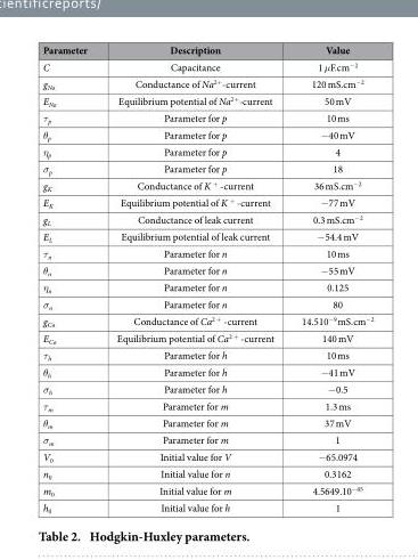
<table><thead><tr><td>Parameter</td><td>Description</td><td>Value</td></tr></thead><tbody><tr><td>C</td><td>Capacitance</td><td>1 μF.cm<sup>−2</sup></td></tr><tr><td>g<sub>Na</sub></td><td>Conductance of Na<sup>2+</sup>-current</td><td>120 mS.cm<sup>−2</sup></td></tr><tr><td>E<sub>Na</sub></td><td>Equilibrium potential of Na<sup>2+</sup>-current</td><td>50 mV</td></tr><tr><td>τ<sub>p</sub></td><td>Parameter for p</td><td>10 ms</td></tr><tr><td>θ<sub>p</sub></td><td>Parameter for p</td><td>− 40 mV</td></tr><tr><td>η<sub>p</sub></td><td>Parameter for p</td><td>4</td></tr><tr><td>σ<sub>p</sub></td><td>Parameter for p</td><td>18</td></tr><tr><td>g<sub>K</sub></td><td>Conductance of K <sup>+</sup> -current</td><td>36 mS.cm<sup>−2</sup></td></tr><tr><td>E<sub>K</sub></td><td>Equilibrium potential of K <sup>+</sup> -current</td><td>− 77 mV</td></tr><tr><td>g<sub>L</sub></td><td>Conductance of leak current</td><td>0.3 mS.cm<sup>−2</sup></td></tr><tr><td>E<sub>L</sub></td><td>Equilibrium potential of leak current</td><td>− 54.4 mV</td></tr><tr><td>τ<sub>n</sub></td><td>Parameter for n</td><td>10 ms</td></tr><tr><td>θ<sub>n</sub></td><td>Parameter for n</td><td>− 55 mV</td></tr><tr><td>η<sub>n</sub></td><td>Parameter for n</td><td>0.125</td></tr><tr><td>σ<sub>n</sub></td><td>Parameter for n</td><td>80</td></tr><tr><td>g<sub>Ca</sub></td><td>Conductance of Ca<sup>2 +</sup> -current</td><td>14.510<sup>−9</sup> mS.cm<sup>−2</sup></td></tr><tr><td>E<sub>Ca</sub></td><td>Equilibrium potential of Ca<sup>2 +</sup> -current</td><td>140 mV</td></tr><tr><td>τ<sub>h</sub></td><td>Parameter for h</td><td>10 ms</td></tr><tr><td>θ<sub>h</sub></td><td>Parameter for h</td><td>− 41 mV</td></tr><tr><td>σ<sub>h</sub></td><td>Parameter for h</td><td>− 0.5</td></tr><tr><td>τ<sub>m</sub></td><td>Parameter for m</td><td>1.3 ms</td></tr><tr><td>θ<sub>m</sub></td><td>Parameter for m</td><td>37 mV</td></tr><tr><td>σ<sub>m</sub></td><td>Parameter for m</td><td>1</td></tr><tr><td>V<sub>0</sub></td><td>Initial value for V</td><td>− 65.0974</td></tr><tr><td>n<sub>0</sub></td><td>Initial value for n</td><td>0.3162</td></tr><tr><td>m<sub>0</sub></td><td>Initial value for m</td><td>4.5649.10<sup>−45</sup></td></tr><tr><td>h<sub>0</sub></td><td>Initial value for h</td><td>1</td></tr></tbody></table>